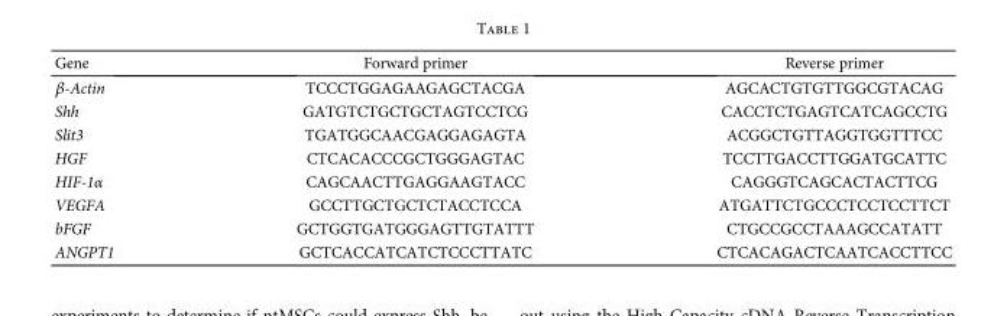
<table><thead><tr><td>Gene</td><td>Forward primer</td><td>Reverse primer</td></tr></thead><tbody><tr><td>β-Actin</td><td>TCCCTGGAGAAGAGCTACGA</td><td>AGCACTGTGTTGGCGTACAG</td></tr><tr><td>Shh</td><td>GATGTCTGCTGCTAGTCCTCG</td><td>CACCTCTGAGTCATCAGCCTG</td></tr><tr><td>Slit3</td><td>TGATGGCAACGAGGAGAGTA</td><td>ACGGCTGTTAGGTGGTTTCC</td></tr><tr><td>HGF</td><td>CTCACACCCGCTGGGAGTAC</td><td>TCCTTGACCTTGGATGCATTC</td></tr><tr><td>HIF-1α</td><td>CAGCAACTTGAGGAAGTACC</td><td>CAGGGTCAGCACTACTTCG</td></tr><tr><td>VEGFA</td><td>GCCTTGCTGCTCTACCTCCA</td><td>ATGATTCTGCCCTCCTCCTTCT</td></tr><tr><td>bFGF</td><td>GCTGGTGATGGGAGTTGTATTT</td><td>CTGCCGCCTAAAGCCATATT</td></tr><tr><td>ANGPT1</td><td>GCTCACCATCATCTCCCTTATC</td><td>CTCACAGACTCAATCACCTTCC</td></tr></tbody></table>